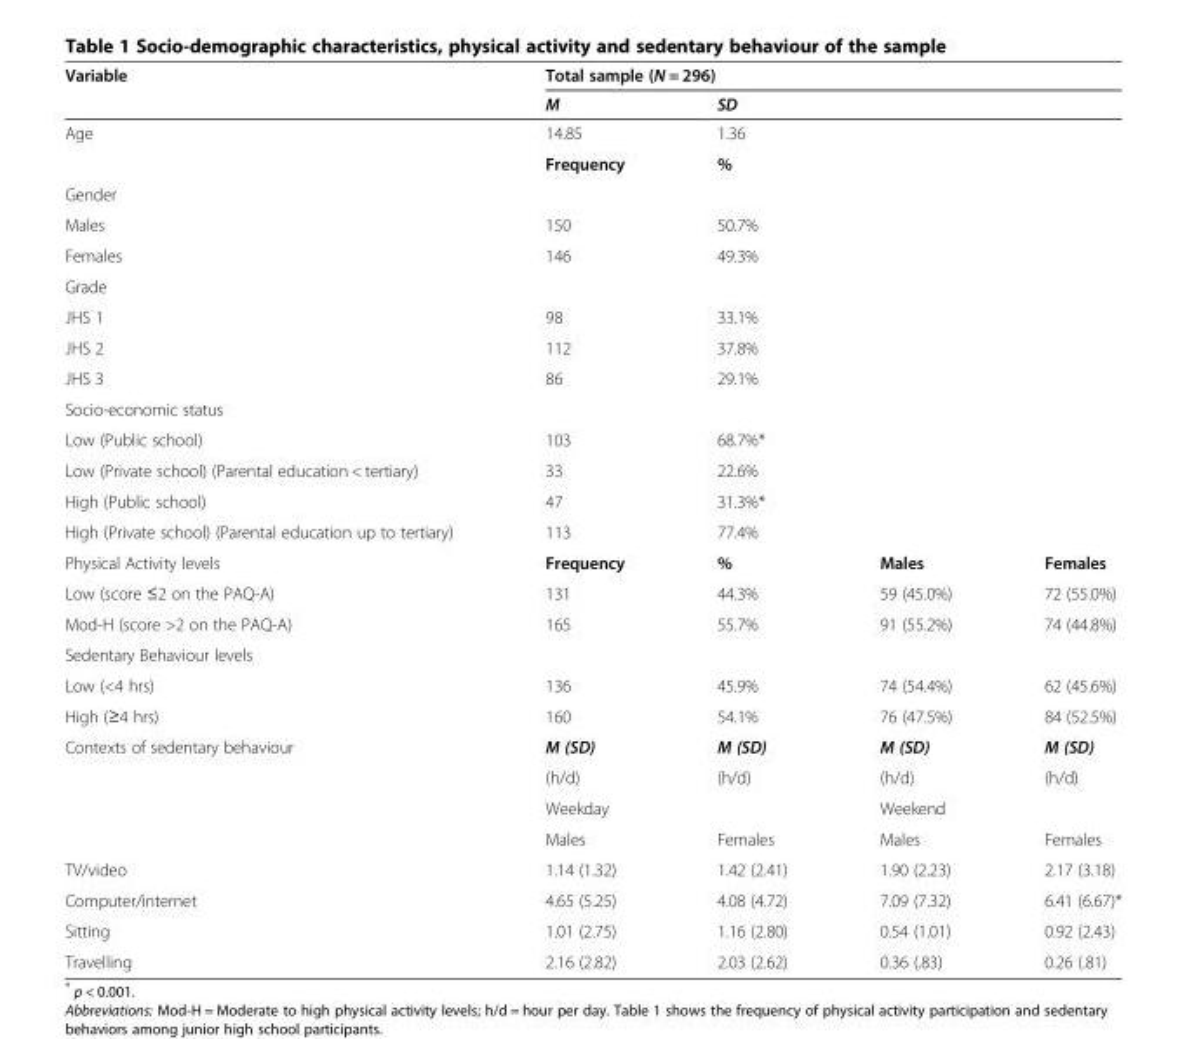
<table><thead><tr><td rowspan="2">Variable</td><td colspan="4">Total sample (N = 296)</td></tr><tr><td>M</td><td>SD</td><td></td><td></td></tr></thead><tbody><tr><td rowspan="2">Age</td><td>14.85</td><td>1.36</td><td></td><td></td></tr><tr><td>Frequency</td><td>%</td><td></td><td></td></tr><tr><td colspan="5">Gender</td></tr><tr><td>Males</td><td>150</td><td>50.7%</td><td></td><td></td></tr><tr><td>Females</td><td>146</td><td>49.3%</td><td></td><td></td></tr><tr><td colspan="5">Grade</td></tr><tr><td>JHS 1</td><td>98</td><td>33.1%</td><td></td><td></td></tr><tr><td>JHS 2</td><td>112</td><td>37.8%</td><td></td><td></td></tr><tr><td>JHS 3</td><td>86</td><td>29.1%</td><td></td><td></td></tr><tr><td colspan="5">Socio-economic status</td></tr><tr><td>Low (Public school)</td><td>103</td><td>68.7%*</td><td></td><td></td></tr><tr><td>Low (Private school) (Parental education &lt; tertiary)</td><td>33</td><td>22.6%</td><td></td><td></td></tr><tr><td>High (Public school)</td><td>47</td><td>31.3%*</td><td></td><td></td></tr><tr><td>High (Private school) (Parental education up to tertiary)</td><td>113</td><td>77.4%</td><td></td><td></td></tr><tr><td>Physical Activity levels</td><td>Frequency</td><td>%</td><td>Males</td><td>Females</td></tr><tr><td>Low (score ≤2 on the PAQ-A)</td><td>131</td><td>44.3%</td><td>59 (45.0%)</td><td>72 (55.0%)</td></tr><tr><td>Mod-H (score &gt;2 on the PAQ-A)</td><td>165</td><td>55.7%</td><td>91 (55.2%)</td><td>74 (44.8%)</td></tr><tr><td colspan="5">Sedentary Behaviour levels</td></tr><tr><td>Low (&lt;4 hrs)</td><td>136</td><td>45.9%</td><td>74 (54.4%)</td><td>62 (45.6%)</td></tr><tr><td>High (≥4 hrs)</td><td>160</td><td>54.1%</td><td>76 (47.5%)</td><td>84 (52.5%)</td></tr><tr><td rowspan="4">Contexts of sedentary behaviour</td><td>M (SD)</td><td>M (SD)</td><td>M (SD)</td><td>M (SD)</td></tr><tr><td>(h/d)</td><td>(h/d)</td><td>(h/d)</td><td>(h/d)</td></tr><tr><td colspan="2">Weekday</td><td colspan="2">Weekend</td></tr><tr><td>Males</td><td>Females</td><td>Males</td><td>Females</td></tr><tr><td>TV/video</td><td>1.14 (1.32)</td><td>1.42 (2.41)</td><td>1.90 (2.23)</td><td>2.17 (3.18)</td></tr><tr><td>Computer/internet</td><td>4.65 (5.25)</td><td>4.08 (4.72)</td><td>7.09 (7.32)</td><td>6.41 (6.67)*</td></tr><tr><td>Sitting</td><td>1.01 (2.75)</td><td>1.16 (2.80)</td><td>0.54 (1.01)</td><td>0.92 (2.43)</td></tr><tr><td>Travelling</td><td>2.16 (2.82)</td><td>2.03 (2.62)</td><td>0.36 (.83)</td><td>0.26 (.81)</td></tr></tbody></table>